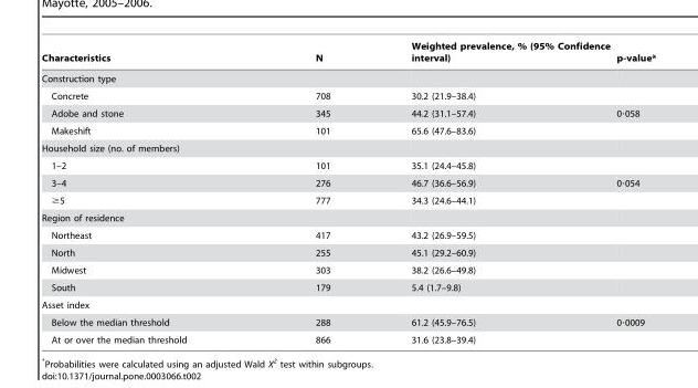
<table><thead><tr><td>Characteristics</td><td>N</td><td>Weighted prevalence, % (95% Confidence interval)</td><td>p-value*</td></tr></thead><tbody><tr><td colspan="4">Construction type</td></tr><tr><td>Concrete</td><td>708</td><td>30.2 (21.9–38.4)</td><td></td></tr><tr><td>Adobe and stone</td><td>345</td><td>44.2 (31.1–57.4)</td><td>0·058</td></tr><tr><td>Makeshift</td><td>101</td><td>65.6 (47.6–83.6)</td><td></td></tr><tr><td colspan="4">Household size (no. of members)</td></tr><tr><td>1–2</td><td>101</td><td>35.1 (24.4–45.8)</td><td></td></tr><tr><td>3–4</td><td>276</td><td>46.7 (36.6–56.9)</td><td>0·054</td></tr><tr><td>≥5</td><td>777</td><td>34.3 (24.6–44.1)</td><td></td></tr><tr><td colspan="4">Region of residence</td></tr><tr><td>Northeast</td><td>417</td><td>43.2 (26.9–59.5)</td><td></td></tr><tr><td>North</td><td>255</td><td>45.1 (29.2–60.9)</td><td></td></tr><tr><td>Midwest</td><td>303</td><td>38.2 (26.6–49.8)</td><td></td></tr><tr><td>South</td><td>179</td><td>5.4 (1.7–9.8)</td><td></td></tr><tr><td colspan="4">Asset index</td></tr><tr><td>Below the median threshold</td><td>288</td><td>61.2 (45.9–76.5)</td><td>0·0009</td></tr><tr><td>At or over the median threshold</td><td>866</td><td>31.6 (23.8–39.4)</td><td></td></tr></tbody></table>